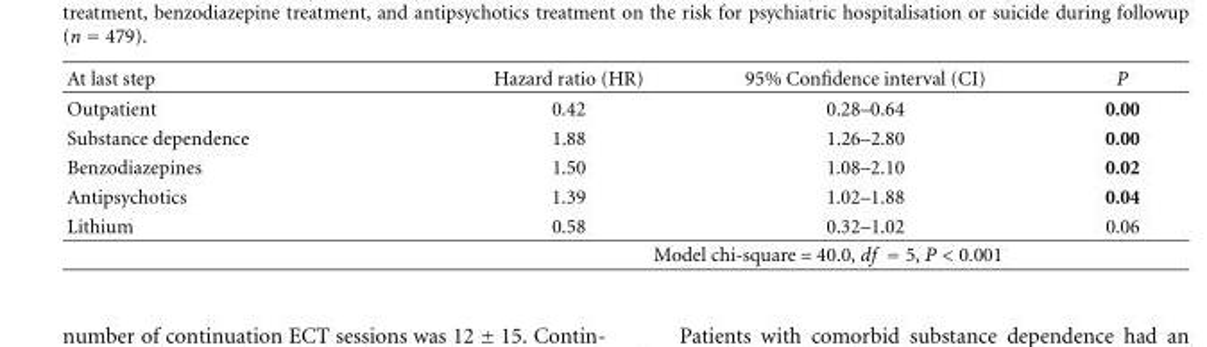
<table><thead><tr><td>At last step</td><td>Hazard ratio (HR)</td><td>95% Confidence interval (CI)</td><td>P</td></tr></thead><tbody><tr><td>Outpatient</td><td>0.42</td><td>0.28–0.64</td><td>0.00</td></tr><tr><td>Substance dependence</td><td>1.88</td><td>1.26–2.80</td><td>0.00</td></tr><tr><td>Benzodiazepines</td><td>1.50</td><td>1.08–2.10</td><td>0.02</td></tr><tr><td>Antipsychotics</td><td>1.39</td><td>1.02–1.88</td><td>0.04</td></tr><tr><td rowspan="2">Lithium</td><td>0.58</td><td>0.32–1.02</td><td>0.06</td></tr><tr><td colspan="3">Model chi-square = 40.0, df = 5, P &lt; 0.001</td></tr></tbody></table>